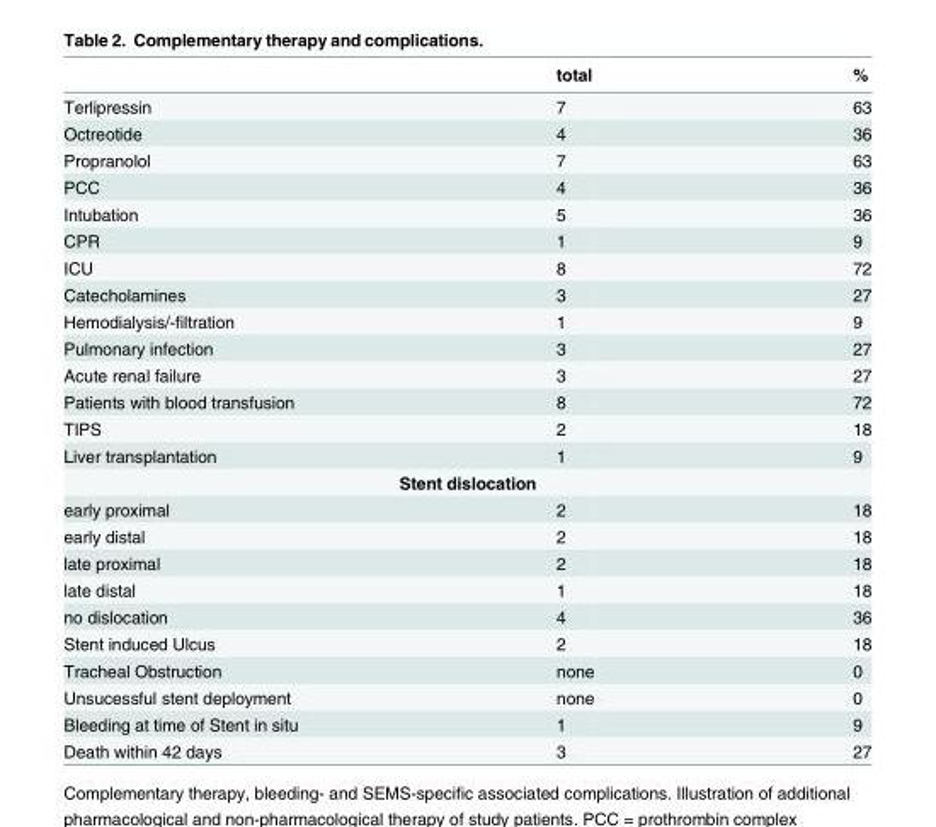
<table><thead><tr><td></td><td>total</td><td>%</td></tr></thead><tbody><tr><td>Terlipressin</td><td>7</td><td>63</td></tr><tr><td>Octreotide</td><td>4</td><td>36</td></tr><tr><td>Propranolol</td><td>7</td><td>63</td></tr><tr><td>PCC</td><td>4</td><td>36</td></tr><tr><td>Intubation</td><td>5</td><td>36</td></tr><tr><td>CPR</td><td>1</td><td>9</td></tr><tr><td>ICU</td><td>8</td><td>72</td></tr><tr><td>Catecholamines</td><td>3</td><td>27</td></tr><tr><td>Hemodialysis/-filtration</td><td>1</td><td>9</td></tr><tr><td>Pulmonary infection</td><td>3</td><td>27</td></tr><tr><td>Acute renal failure</td><td>3</td><td>27</td></tr><tr><td>Patients with blood transfusion</td><td>8</td><td>72</td></tr><tr><td>TIPS</td><td>2</td><td>18</td></tr><tr><td>Liver transplantation</td><td>1</td><td>9</td></tr><tr><td colspan="3">Stent dislocation</td></tr><tr><td>early proximal</td><td>2</td><td>18</td></tr><tr><td>early distal</td><td>2</td><td>18</td></tr><tr><td>late proximal</td><td>2</td><td>18</td></tr><tr><td>late distal</td><td>1</td><td>18</td></tr><tr><td>no dislocation</td><td>4</td><td>36</td></tr><tr><td>Stent induced Ulcus</td><td>2</td><td>18</td></tr><tr><td>Tracheal Obstruction</td><td>none</td><td>0</td></tr><tr><td>Unsucessful stent deployment</td><td>none</td><td>0</td></tr><tr><td>Bleeding at time of Stent in situ</td><td>1</td><td>9</td></tr><tr><td>Death within 42 days</td><td>3</td><td>27</td></tr></tbody></table>